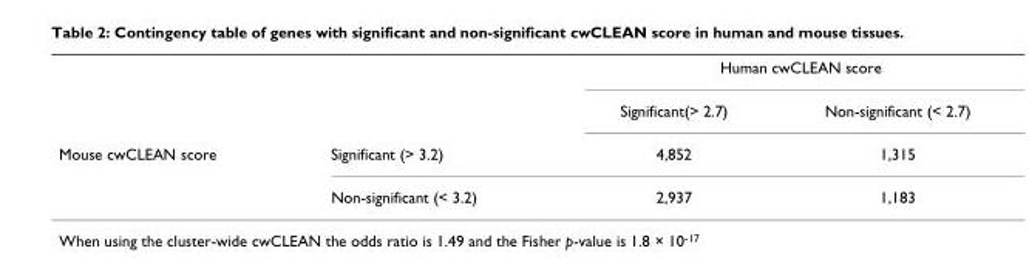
<table><thead><tr><td rowspan="2"></td><td rowspan="2"></td><td colspan="2">Human cwCLEAN score</td></tr><tr><td>Significant(&gt; 2.7)</td><td>Non-significant (&lt; 2.7)</td></tr></thead><tbody><tr><td rowspan="2">Mouse cwCLEAN score</td><td>Significant (&gt; 3.2)</td><td>4,852</td><td>1,315</td></tr><tr><td>Non-significant (&lt; 3.2)</td><td>2,937</td><td>1,183</td></tr></tbody></table>